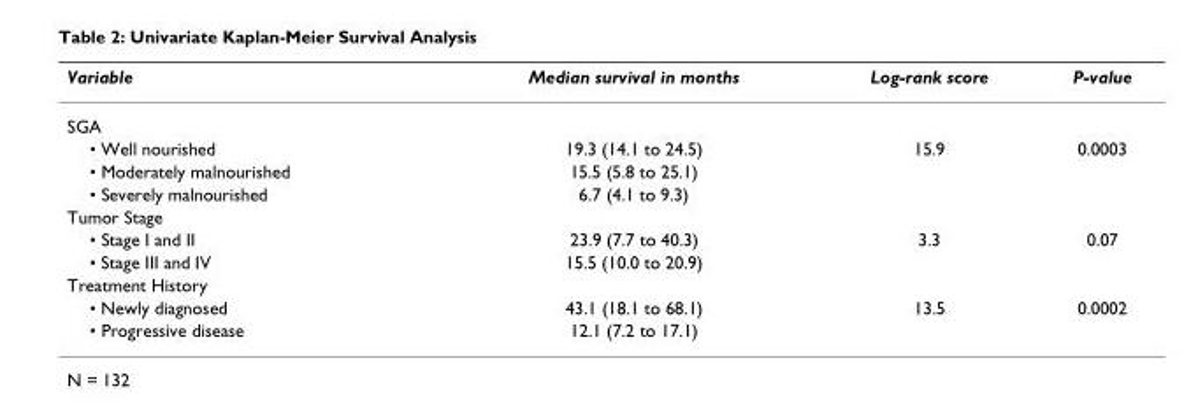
<table><thead><tr><td>Variable</td><td>Median survival in months</td><td>Log-rank score</td><td>P-value</td></tr></thead><tbody><tr><td colspan="4">SGA</td></tr><tr><td>• Well nourished</td><td>19.3 (14.1 to 24.5)</td><td>15.9</td><td>0.0003</td></tr><tr><td>• Moderately malnourished</td><td>15.5 (5.8 to 25.1)</td><td></td><td></td></tr><tr><td>• Severely malnourished</td><td>6.7 (4.1 to 9.3)</td><td></td><td></td></tr><tr><td colspan="4">Tumor Stage</td></tr><tr><td>• Stage I and II</td><td>23.9 (7.7 to 40.3)</td><td>3.3</td><td>0.07</td></tr><tr><td>• Stage III and IV</td><td>15.5 (10.0 to 20.9)</td><td></td><td></td></tr><tr><td colspan="4">Treatment History</td></tr><tr><td>• Newly diagnosed</td><td>43.1 (18.1 to 68.1)</td><td>13.5</td><td>0.0002</td></tr><tr><td>• Progressive disease</td><td>12.1 (7.2 to 17.1)</td><td></td><td></td></tr></tbody></table>